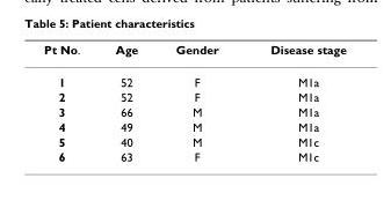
<table><thead><tr><td>Pt No.</td><td>Age</td><td>Gender</td><td>Disease stage</td></tr></thead><tbody><tr><td>1</td><td>52</td><td>F</td><td>M1a</td></tr><tr><td>2</td><td>52</td><td>F</td><td>M1a</td></tr><tr><td>3</td><td>66</td><td>M</td><td>M1a</td></tr><tr><td>4</td><td>49</td><td>M</td><td>M1a</td></tr><tr><td>5</td><td>40</td><td>M</td><td>M1c</td></tr><tr><td>6</td><td>63</td><td>F</td><td>M1c</td></tr></tbody></table>